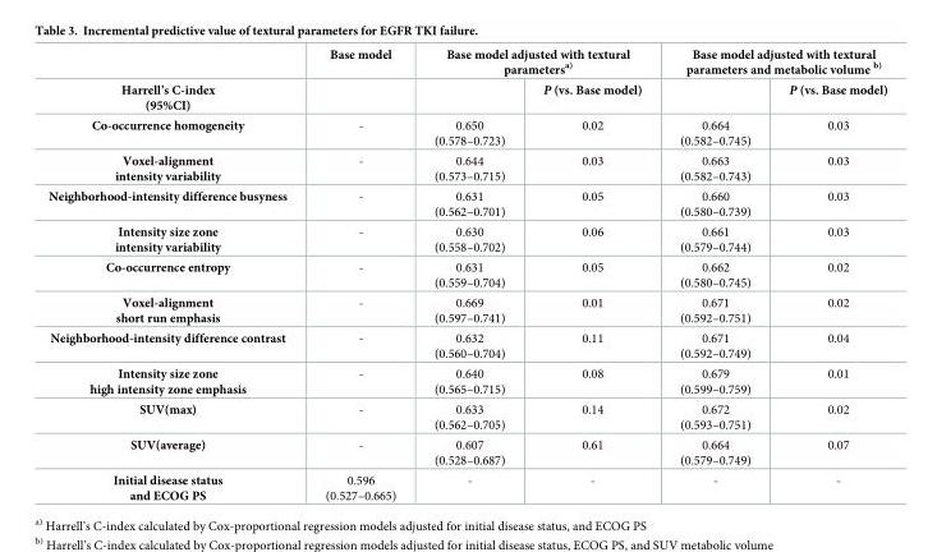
<table><thead><tr><td rowspan="2">Harrell’s C-index (95%CI)</td><td rowspan="2">Base model</td><td colspan="2">Base model adjusted with textural parameters<sup>a)</sup></td><td colspan="2">Base model adjusted with textural parameters and metabolic volume <sup>b)</sup></td></tr><tr><td></td><td>P (vs. Base model)</td><td></td><td>P (vs. Base model)</td></tr></thead><tbody><tr><td>Co-occurrence homogeneity</td><td>-</td><td>0.650 (0.578–0.723)</td><td>0.02</td><td>0.664 (0.582–0.745)</td><td>0.03</td></tr><tr><td>Voxel-alignment intensity variability</td><td>-</td><td>0.644 (0.573–0.715)</td><td>0.03</td><td>0.663 (0.582–0.743)</td><td>0.03</td></tr><tr><td>Neighborhood-intensity difference busyness</td><td>-</td><td>0.631 (0.562–0.701)</td><td>0.05</td><td>0.660 (0.580–0.739)</td><td>0.03</td></tr><tr><td>Intensity size zone intensity variability</td><td>-</td><td>0.630 (0.558–0.702)</td><td>0.06</td><td>0.661 (0.579–0.744)</td><td>0.03</td></tr><tr><td>Co-occurrence entropy</td><td>-</td><td>0.631 (0.559–0.704)</td><td>0.05</td><td>0.662 (0.580–0.745)</td><td>0.02</td></tr><tr><td>Voxel-alignment short run emphasis</td><td>-</td><td>0.669 (0.597–0.741)</td><td>0.01</td><td>0.671 (0.592–0.751)</td><td>0.02</td></tr><tr><td>Neighborhood-intensity difference contrast</td><td>-</td><td>0.632 (0.560–0.704)</td><td>0.11</td><td>0.671 (0.592–0.749)</td><td>0.04</td></tr><tr><td>Intensity size zone high intensity zone emphasis</td><td>-</td><td>0.640 (0.565–0.715)</td><td>0.08</td><td>0.679 (0.599–0.759)</td><td>0.01</td></tr><tr><td>SUV(max)</td><td>-</td><td>0.633 (0.562–0.705)</td><td>0.14</td><td>0.672 (0.593–0.751)</td><td>0.02</td></tr><tr><td>SUV(average)</td><td>-</td><td>0.607 (0.528–0.687)</td><td>0.61</td><td>0.664 (0.579–0.749)</td><td>0.07</td></tr><tr><td>Initial disease status and ECOG PS</td><td>0.596 (0.527–0.665)</td><td>-</td><td>-</td><td>-</td><td>-</td></tr></tbody></table>